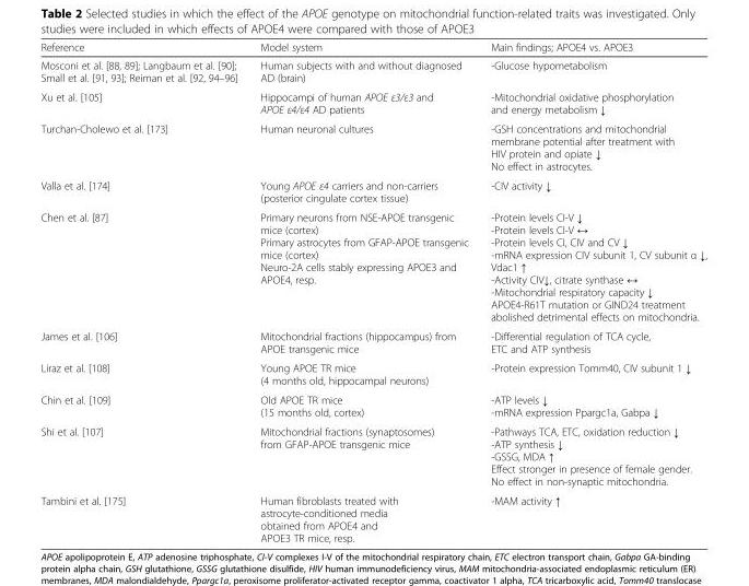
<table><thead><tr><td>Reference</td><td>Model system</td><td>Main findings; APOE4 vs. APOE3</td></tr></thead><tbody><tr><td>Mosconi et al. [88, 89]; Langbaum et al. [90]; Small et al. [91, 93]; Reiman et al. [92, 94–96]</td><td>Human subjects with and without diagnosed AD (brain)</td><td>-Glucose hypometabolism</td></tr><tr><td>Xu et al. [105]</td><td>Hippocampi of human APOE ε3/ε3 and APOE ε4/ε4 AD patients</td><td>-Mitochondrial oxidative phosphorylation and energy metabolism ↓</td></tr><tr><td>Turchan-Cholewo et al. [173]</td><td>Human neuronal cultures</td><td>-GSH concentrations and mitochondrial membrane potential after treatment with HIV protein and opiate ↓ No effect in astrocytes.</td></tr><tr><td>Valla et al. [174]</td><td>Young APOE ε4 carriers and non-carriers (posterior cingulate cortex tissue)</td><td>-CIV activity ↓</td></tr><tr><td>Chen et al. [87]</td><td>Primary neurons from NSE-APOE transgenic mice (cortex) Primary astrocytes from GFAP-APOE transgenic mice (cortex) Neuro-2A cells stably expressing APOE3 and APOE4, resp.</td><td>-Protein levels CI-V ↓ -Protein levels CI-V ↔ -Protein levels CI, CIV and CV ↓ -mRNA expression CIV subunit 1, CV subunit α ↓, Vdac1 ↑ -Activity CIV↓, citrate synthase ↔ -Mitochondrial respiratory capacity ↓ APOE4-R61T mutation or GIND24 treatment abolished detrimental effects on mitochondria.</td></tr><tr><td>James et al. [106]</td><td>Mitochondrial fractions (hippocampus) from APOE transgenic mice</td><td>-Differential regulation of TCA cycle, ETC and ATP synthesis</td></tr><tr><td>Liraz et al. [108]</td><td>Young APOE TR mice (4 months old, hippocampal neurons)</td><td>-Protein expression Tomm40, CIV subunit 1 ↓</td></tr><tr><td>Chin et al. [109]</td><td>Old APOE TR mice (15 months old, cortex)</td><td>-ATP levels ↓ -mRNA expression Ppargc1a, Gabpa ↓</td></tr><tr><td>Shi et al. [107]</td><td>Mitochondrial fractions (synaptosomes) from GFAP-APOE transgenic mice</td><td>-Pathways TCA, ETC, oxidation reduction ↓ -ATP synthesis ↓ -GSSG, MDA ↑ Effect stronger in presence of female gender. No effect in non-synaptic mitochondria.</td></tr><tr><td>Tambini et al. [175]</td><td>Human fibroblasts treated with astrocyte-conditioned media obtained from APOE4 and APOE3 TR mice, resp.</td><td>-MAM activity ↑</td></tr></tbody></table>